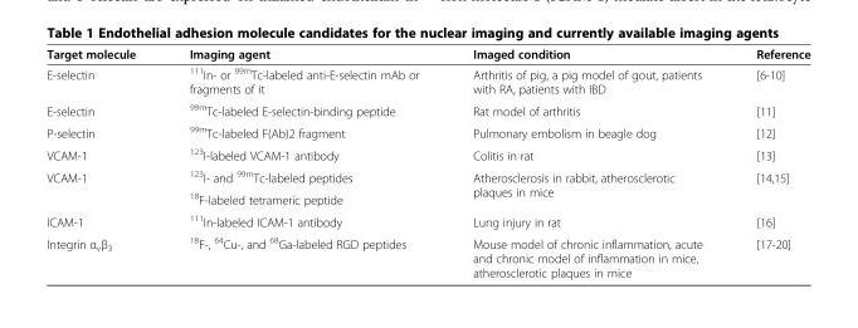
<table><thead><tr><td>Target molecule</td><td>Imaging agent</td><td>Imaged condition</td><td>Reference</td></tr></thead><tbody><tr><td>E-selectin</td><td><sup>111</sup>In- or <sup>99m</sup>Tc-labeled anti-E-selectin mAb or fragments of it</td><td>Arthritis of pig, a pig model of gout, patients with RA, patients with IBD</td><td>[6-10]</td></tr><tr><td>E-selectin</td><td><sup>99m</sup>Tc-labeled E-selectin-binding peptide</td><td>Rat model of arthritis</td><td>[11]</td></tr><tr><td>P-selectin</td><td><sup>99m</sup>Tc-labeled F(Ab)2 fragment</td><td>Pulmonary embolism in beagle dog</td><td>[12]</td></tr><tr><td>VCAM-1</td><td><sup>123</sup>I-labeled VCAM-1 antibody</td><td>Colitis in rat</td><td>[13]</td></tr><tr><td rowspan="2">VCAM-1</td><td><sup>123</sup>I- and <sup>99m</sup>Tc-labeled peptides</td><td rowspan="2">Atherosclerosis in rabbit, atherosclerotic plaques in mice</td><td rowspan="2">[14,15]</td></tr><tr><td><sup>18</sup>F-labeled tetrameric peptide</td></tr><tr><td>ICAM-1</td><td><sup>111</sup>In-labeled ICAM-1 antibody</td><td>Lung injury in rat</td><td>[16]</td></tr><tr><td>Integrin α<sub>v</sub>β<sub>3</sub></td><td><sup>18</sup>F-, <sup>64</sup>Cu-, and <sup>68</sup>Ga-labeled RGD peptides</td><td>Mouse model of chronic inflammation, acute and chronic model of inflammation in mice, atherosclerotic plaques in mice</td><td>[17-20]</td></tr></tbody></table>